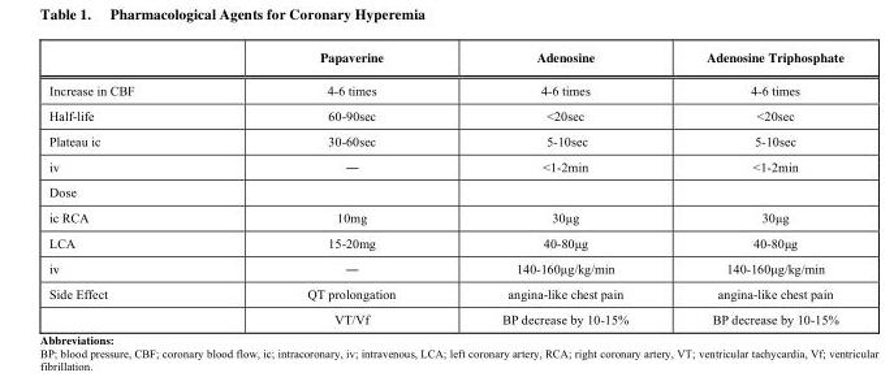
<table><thead><tr><td></td><td>Papaverine</td><td>Adenosine</td><td>Adenosine Triphosphate</td></tr></thead><tbody><tr><td>Increase in CBF</td><td>4-6 times</td><td>4-6 times</td><td>4-6 times</td></tr><tr><td>Half-life</td><td>60-90sec</td><td>&lt;20sec</td><td>&lt;20sec</td></tr><tr><td>Plateau ic</td><td>30-60sec</td><td>5-10sec</td><td>5-10sec</td></tr><tr><td>iv</td><td>—</td><td>&lt;1-2min</td><td>&lt;1-2min</td></tr><tr><td colspan="4">Dose</td></tr><tr><td>ic RCA</td><td>10mg</td><td>30μg</td><td>30μg</td></tr><tr><td>LCA</td><td>15-20mg</td><td>40-80μg</td><td>40-80μg</td></tr><tr><td>iv</td><td>—</td><td>140-160μg/kg/min</td><td>140-160μg/kg/min</td></tr><tr><td rowspan="2">Side Effect</td><td>QT prolongation</td><td>angina-like chest pain</td><td>angina-like chest pain</td></tr><tr><td>VT/Vf</td><td>BP decrease by 10-15%</td><td>BP decrease by 10-15%</td></tr></tbody></table>